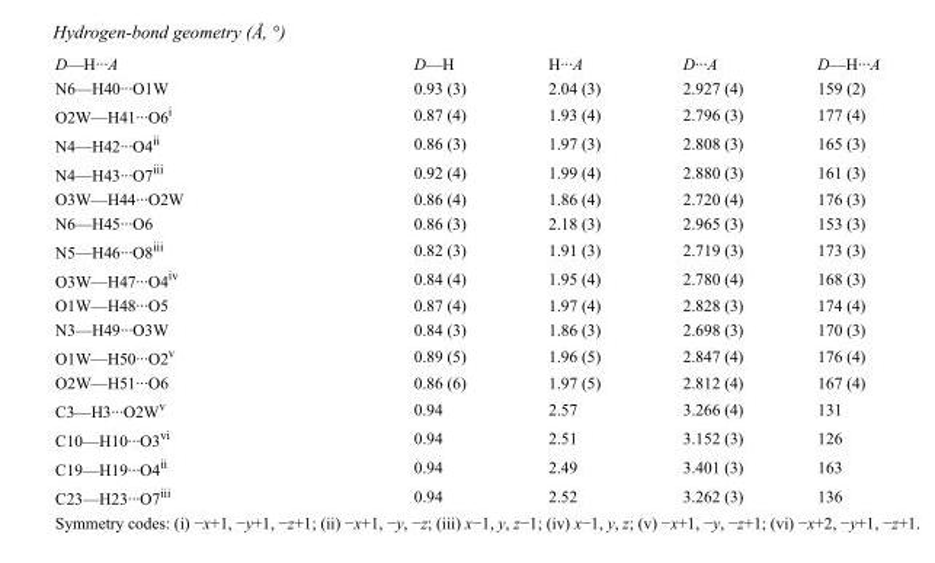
<table><tbody><tr><td>D—H···A</td><td>D—H</td><td>H···A</td><td>D···A</td><td>D—H···A</td></tr><tr><td>N6—H40···O1W</td><td>0.93 (3)</td><td>2.04 (3)</td><td>2.927 (4)</td><td>159 (2)</td></tr><tr><td>O2W—H41···O6<sup>i</sup></td><td>0.87 (4)</td><td>1.93 (4)</td><td>2.796 (3)</td><td>177 (4)</td></tr><tr><td>N4—H42···O4<sup>ii</sup></td><td>0.86 (3)</td><td>1.97 (3)</td><td>2.808 (3)</td><td>165 (3)</td></tr><tr><td>N4—H43···O7<sup>iii</sup></td><td>0.92 (4)</td><td>1.99 (4)</td><td>2.880 (3)</td><td>161 (3)</td></tr><tr><td>O3W—H44···O2W</td><td>0.86 (4)</td><td>1.86 (4)</td><td>2.720 (4)</td><td>176 (3)</td></tr><tr><td>N6—H45···O6</td><td>0.86 (3)</td><td>2.18 (3)</td><td>2.965 (3)</td><td>153 (3)</td></tr><tr><td>N5—H46···O8<sup>iii</sup></td><td>0.82 (3)</td><td>1.91 (3)</td><td>2.719 (3)</td><td>173 (3)</td></tr><tr><td>O3W—H47···O4<sup>iv</sup></td><td>0.84 (4)</td><td>1.95 (4)</td><td>2.780 (4)</td><td>168 (3)</td></tr><tr><td>O1W—H48···O5</td><td>0.87 (4)</td><td>1.97 (4)</td><td>2.828 (3)</td><td>174 (4)</td></tr><tr><td>N3—H49···O3W</td><td>0.84 (3)</td><td>1.86 (3)</td><td>2.698 (3)</td><td>170 (3)</td></tr><tr><td>O1W—H50···O2<sup>v</sup></td><td>0.89 (5)</td><td>1.96 (5)</td><td>2.847 (4)</td><td>176 (4)</td></tr><tr><td>O2W—H51···O6</td><td>0.86 (6)</td><td>1.97 (5)</td><td>2.812 (4)</td><td>167 (4)</td></tr><tr><td>C3—H3···O2W<sup>v</sup></td><td>0.94</td><td>2.57</td><td>3.266 (4)</td><td>131</td></tr><tr><td>C10—H10···O3<sup>vi</sup></td><td>0.94</td><td>2.51</td><td>3.152 (3)</td><td>126</td></tr><tr><td>C19—H19···O4<sup>ii</sup></td><td>0.94</td><td>2.49</td><td>3.401 (3)</td><td>163</td></tr><tr><td>C23—H23···O7<sup>iii</sup></td><td>0.94</td><td>2.52</td><td>3.262 (3)</td><td>136</td></tr></tbody></table>